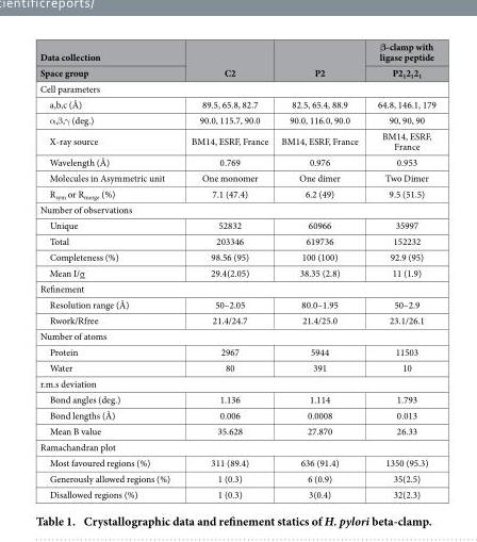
<table><thead><tr><td rowspan="2">Data collection Space group</td><td rowspan="2">C2</td><td rowspan="2">P2</td><td rowspan="2">β -clamp with ligase peptide P2<sub>1</sub>2<sub>1</sub>2<sub>1</sub></td></tr><tr></tr></thead><tbody><tr><td colspan="4">Cell parameters</td></tr><tr><td>a,b,c (Å)</td><td>89.5, 65.8, 82.7</td><td>82.5, 65.4, 88.9</td><td>64.8, 146.1, 179</td></tr><tr><td>α ,β ,γ (deg.)</td><td>90.0, 115.7, 90.0</td><td>90.0, 116.0, 90.0</td><td>90, 90, 90</td></tr><tr><td>X-ray source</td><td>BM14, ESRF, France</td><td>BM14, ESRF, France</td><td>BM14, ESRF, France</td></tr><tr><td>Wavelength (Å)</td><td>0.769</td><td>0.976</td><td>0.953</td></tr><tr><td>Molecules in Asymmetric unit</td><td>One monomer</td><td>One dimer</td><td>Two Dimer</td></tr><tr><td>R<sub>sym</sub> or R<sub>merge</sub> (%)</td><td>7.1 (47.4)</td><td>6.2 (49)</td><td>9.5 (51.5)</td></tr><tr><td colspan="4">Number of observations</td></tr><tr><td>Unique</td><td>52832</td><td>60966</td><td>35997</td></tr><tr><td>Total</td><td>203346</td><td>619736</td><td>152232</td></tr><tr><td>Completeness (%)</td><td>98.56 (95)</td><td>100 (100)</td><td>92.9 (95)</td></tr><tr><td>Mean I/σ</td><td>29.4(2.05)</td><td>38.35 (2.8)</td><td>11 (1.9)</td></tr><tr><td colspan="4">Refinement</td></tr><tr><td>Resolution range (Å)</td><td>50–2.05</td><td>80.0–1.95</td><td>50–2.9</td></tr><tr><td>Rwork/Rfree</td><td>21.4/24.7</td><td>21.4/25.0</td><td>23.1/26.1</td></tr><tr><td colspan="4">Number of atoms</td></tr><tr><td>Protein</td><td>2967</td><td>5944</td><td>11503</td></tr><tr><td>Water</td><td>80</td><td>391</td><td>10</td></tr><tr><td colspan="4">r.m.s deviation</td></tr><tr><td>Bond angles (deg.)</td><td>1.136</td><td>1.114</td><td>1.793</td></tr><tr><td>Bond lengths (Å)</td><td>0.006</td><td>0.0008</td><td>0.013</td></tr><tr><td>Mean B value</td><td>35.628</td><td>27.870</td><td>26.33</td></tr><tr><td colspan="4">Ramachandran plot</td></tr><tr><td>Most favoured regions (%)</td><td>311 (89.4)</td><td>636 (91.4)</td><td>1350 (95.3)</td></tr><tr><td>Generously allowed regions (%)</td><td>1 (0.3)</td><td>6 (0.9)</td><td>35(2.5)</td></tr><tr><td>Disallowed regions (%)</td><td>1 (0.3)</td><td>3(0.4)</td><td>32(2.3)</td></tr></tbody></table>